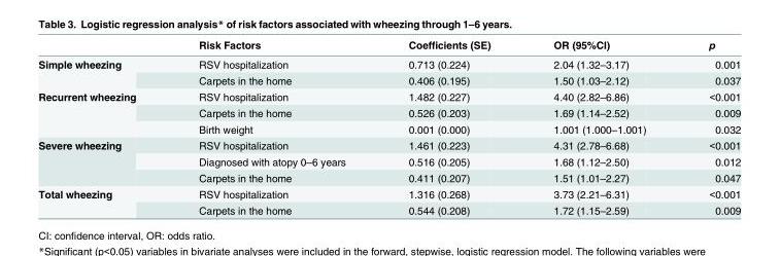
<table><thead><tr><td></td><td>Risk Factors</td><td>Coefficients (SE)</td><td>OR (95%CI)</td><td>p</td></tr></thead><tbody><tr><td rowspan="2">Simple wheezing</td><td>RSV hospitalization</td><td>0.713 (0.224)</td><td>2.04 (1.32–3.17)</td><td>0.001</td></tr><tr><td>Carpets in the home</td><td>0.406 (0.195)</td><td>1.50 (1.03–2.12)</td><td>0.037</td></tr><tr><td rowspan="3">Recurrent wheezing</td><td>RSV hospitalization</td><td>1.482 (0.227)</td><td>4.40 (2.82–6.86)</td><td>&lt;0.001</td></tr><tr><td>Carpets in the home</td><td>0.526 (0.203)</td><td>1.69 (1.14–2.52)</td><td>0.009</td></tr><tr><td>Birth weight</td><td>0.001 (0.000)</td><td>1.001 (1.000–1.001)</td><td>0.032</td></tr><tr><td rowspan="3">Severe wheezing</td><td>RSV hospitalization</td><td>1.461 (0.223)</td><td>4.31 (2.78–6.68)</td><td>&lt;0.001</td></tr><tr><td>Diagnosed with atopy 0–6 years</td><td>0.516 (0.205)</td><td>1.68 (1.12–2.50)</td><td>0.012</td></tr><tr><td>Carpets in the home</td><td>0.411 (0.207)</td><td>1.51 (1.01–2.27)</td><td>0.047</td></tr><tr><td rowspan="2">Total wheezing</td><td>RSV hospitalization</td><td>1.316 (0.268)</td><td>3.73 (2.21–6.31)</td><td>&lt;0.001</td></tr><tr><td>Carpets in the home</td><td>0.544 (0.208)</td><td>1.72 (1.15–2.59)</td><td>0.009</td></tr></tbody></table>